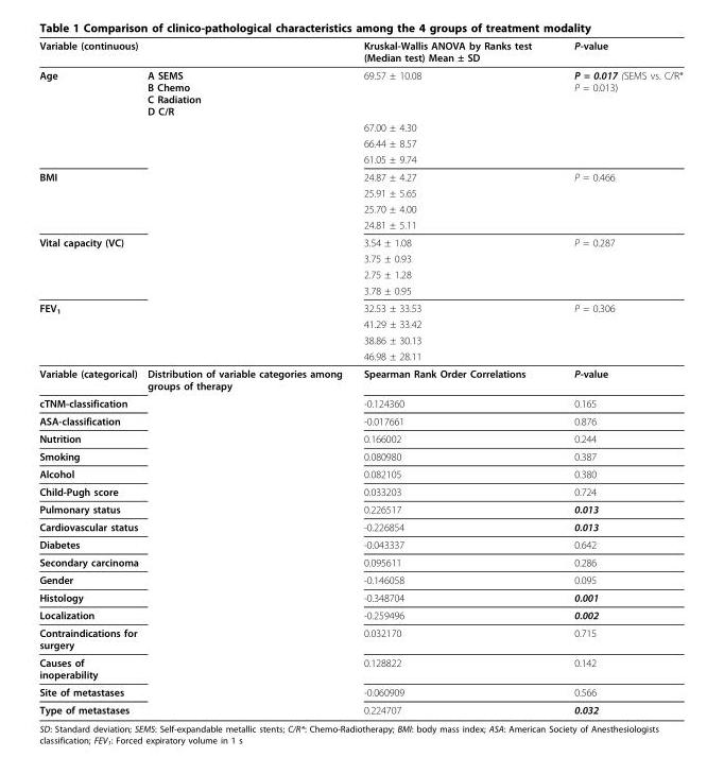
<table><thead><tr><td>Variable (continuous)</td><td></td><td>Kruskal-Wallis ANOVA by Ranks test (Median test) Mean ± SD</td><td>P-value</td></tr></thead><tbody><tr><td rowspan="4">Age</td><td>A SEMS B Chemo C Radiation D C/R</td><td>69.57 ± 10.08</td><td>P = 0.017 (SEMS vs. C/R* P = 0.013)</td></tr><tr><td></td><td>67.00 ± 4.30</td><td></td></tr><tr><td></td><td>66.44 ± 8.57</td><td></td></tr><tr><td></td><td>61.05 ± 9.74</td><td></td></tr><tr><td rowspan="4">BMI</td><td></td><td>24.87 ± 4.27</td><td>P = 0.466</td></tr><tr><td></td><td>25.91 ± 5.65</td><td></td></tr><tr><td></td><td>25.70 ± 4.00</td><td></td></tr><tr><td></td><td>24.81 ± 5.11</td><td></td></tr><tr><td rowspan="4">Vital capacity (VC)</td><td></td><td>3.54 ± 1.08</td><td>P = 0.287</td></tr><tr><td></td><td>3.75 ± 0.93</td><td></td></tr><tr><td></td><td>2.75 ± 1.28</td><td></td></tr><tr><td></td><td>3.78 ± 0.95</td><td></td></tr><tr><td rowspan="4">FEV<sub>1</sub></td><td></td><td>32.53 ± 33.53</td><td>P = 0.306</td></tr><tr><td></td><td>41.29 ± 33.42</td><td></td></tr><tr><td></td><td>38.86 ± 30.13</td><td></td></tr><tr><td></td><td>46.98 ± 28.11</td><td></td></tr><tr><td>Variable (categorical)</td><td>Distribution of variable categories among groups of therapy</td><td>Spearman Rank Order Correlations</td><td>P-value</td></tr><tr><td>cTNM-classification</td><td></td><td>-0.124360</td><td>0.165</td></tr><tr><td>ASA-classification</td><td></td><td>-0.017661</td><td>0.876</td></tr><tr><td>Nutrition</td><td></td><td>0.166002</td><td>0.244</td></tr><tr><td>Smoking</td><td></td><td>0.080980</td><td>0.387</td></tr><tr><td>Alcohol</td><td></td><td>0.082105</td><td>0.380</td></tr><tr><td>Child-Pugh score</td><td></td><td>0.033203</td><td>0.724</td></tr><tr><td>Pulmonary status</td><td></td><td>0.226517</td><td>0.013</td></tr><tr><td>Cardiovascular status</td><td></td><td>-0.226854</td><td>0.013</td></tr><tr><td>Diabetes</td><td></td><td>-0.043337</td><td>0.642</td></tr><tr><td>Secondary carcinoma</td><td></td><td>0.095611</td><td>0.286</td></tr><tr><td>Gender</td><td></td><td>-0.146058</td><td>0.095</td></tr><tr><td>Histology</td><td></td><td>-0.348704</td><td>0.001</td></tr><tr><td>Localization</td><td></td><td>-0.259496</td><td>0.002</td></tr><tr><td>Contraindications for surgery</td><td></td><td>0.032170</td><td>0.715</td></tr><tr><td>Causes of inoperability</td><td></td><td>0.128822</td><td>0.142</td></tr><tr><td>Site of metastases</td><td></td><td>-0.060909</td><td>0.566</td></tr><tr><td>Type of metastases</td><td></td><td>0.224707</td><td>0.032</td></tr></tbody></table>